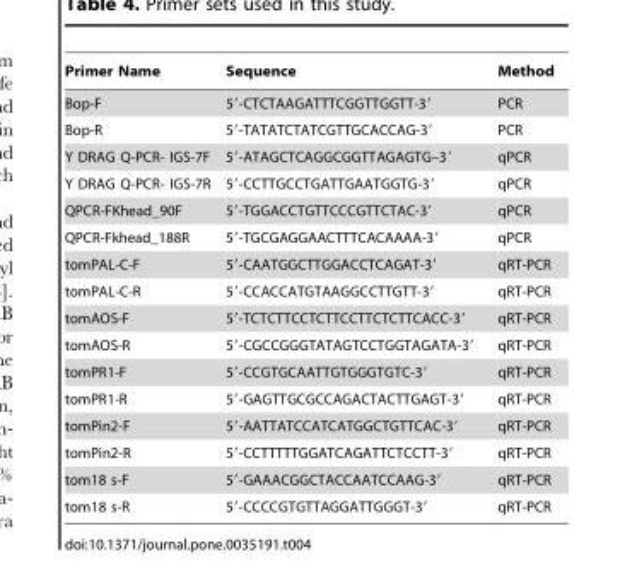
<table><thead><tr><td>Primer Name</td><td>Sequence</td><td>Method</td></tr></thead><tbody><tr><td>Bop-F</td><td>5′-CTCTAAGATTTCGGTTGGTT-3′</td><td>PCR</td></tr><tr><td>Bop-R</td><td>5′-TATATCTATCGTTGCACCAG-3′</td><td>PCR</td></tr><tr><td>Y DRAG Q-PCR- IGS-7F</td><td>5′-ATAGCTCAGGCGGTTAGAGTG–3′</td><td>qPCR</td></tr><tr><td>Y DRAG Q-PCR- IGS-7R</td><td>5′-CCTTGCCTGATTGAATGGTG-3′</td><td>qPCR</td></tr><tr><td>QPCR-FKhead_90F</td><td>5′-TGGACCTGTTCCCGTTCTAC-3′</td><td>qPCR</td></tr><tr><td>QPCR-Fkhead_188R</td><td>5′-TGCGAGGAACTTTCACAAAA-3′</td><td>qPCR</td></tr><tr><td>tomPAL-C-F</td><td>5′-CAATGGCTTGGACCTCAGAT-3′</td><td>qRT-PCR</td></tr><tr><td>tomPAL-C-R</td><td>5′-CCACCATGTAAGGCCTTGTT-3′</td><td>qRT-PCR</td></tr><tr><td>tomAOS-F</td><td>5′-TCTCTTCCTCTTCCTTCTCTTCACC-3′</td><td>qRT-PCR</td></tr><tr><td>tomAOS-R</td><td>5′-CGCCGGGTATAGTCCTGGTAGATA-3′</td><td>qRT-PCR</td></tr><tr><td>tomPR1-F</td><td>5′-CCGTGCAATTGTGGGTGTC-3′</td><td>qRT-PCR</td></tr><tr><td>tomPR1-R</td><td>5′-GAGTTGCGCCAGACTACTTGAGT-3′</td><td>qRT-PCR</td></tr><tr><td>tomPin2-F</td><td>5′-AATTATCCATCATGGCTGTTCAC-3′</td><td>qRT-PCR</td></tr><tr><td>tomPin2-R</td><td>5′-CCTTTTTGGATCAGATTCTCCTT-3′</td><td>qRT-PCR</td></tr><tr><td>tom18 s-F</td><td>5′-GAAACGGCTACCAATCCAAG-3′</td><td>qRT-PCR</td></tr><tr><td>tom18 s-R</td><td>5′-CCCCGTGTTAGGATTGGGT-3′</td><td>qRT-PCR</td></tr></tbody></table>